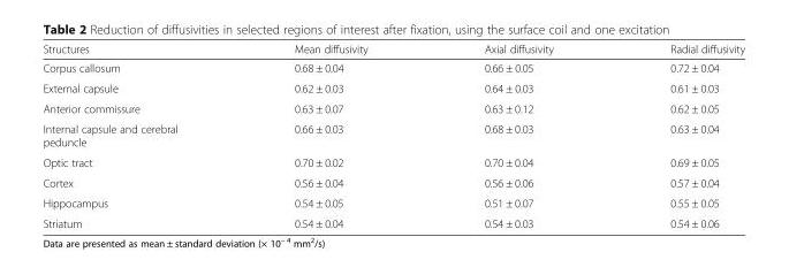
<table><thead><tr><td>Structures</td><td>Mean diffusivity</td><td>Axial diffusivity</td><td>Radial diffusivity</td></tr></thead><tbody><tr><td>Corpus callosum</td><td>0.68 ± 0.04</td><td>0.66 ± 0.05</td><td>0.72 ± 0.04</td></tr><tr><td>External capsule</td><td>0.62 ± 0.03</td><td>0.64 ± 0.03</td><td>0.61 ± 0.03</td></tr><tr><td>Anterior commissure</td><td>0.63 ± 0.07</td><td>0.63 ± 0.12</td><td>0.62 ± 0.05</td></tr><tr><td>Internal capsule and cerebral peduncle</td><td>0.66 ± 0.03</td><td>0.68 ± 0.03</td><td>0.63 ± 0.04</td></tr><tr><td>Optic tract</td><td>0.70 ± 0.02</td><td>0.70 ± 0.04</td><td>0.69 ± 0.05</td></tr><tr><td>Cortex</td><td>0.56 ± 0.04</td><td>0.56 ± 0.06</td><td>0.57 ± 0.04</td></tr><tr><td>Hippocampus</td><td>0.54 ± 0.05</td><td>0.51 ± 0.07</td><td>0.55 ± 0.05</td></tr><tr><td>Striatum</td><td>0.54 ± 0.04</td><td>0.54 ± 0.03</td><td>0.54 ± 0.06</td></tr></tbody></table>